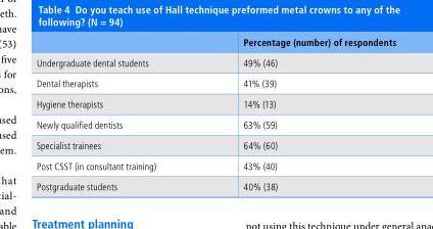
<table><thead><tr><td></td><td>Percentage (number) of respondents</td></tr></thead><tbody><tr><td>Undergraduate dental students</td><td>49% (46)</td></tr><tr><td>Dental therapists</td><td>41% (39)</td></tr><tr><td>Hygiene therapists</td><td>14% (13)</td></tr><tr><td>Newly qualified dentists</td><td>63% (59)</td></tr><tr><td>Specialist trainees</td><td>64% (60)</td></tr><tr><td>Post CSST (in consultant training)</td><td>43% (40)</td></tr><tr><td>Postgraduate students</td><td>40% (38)</td></tr></tbody></table>